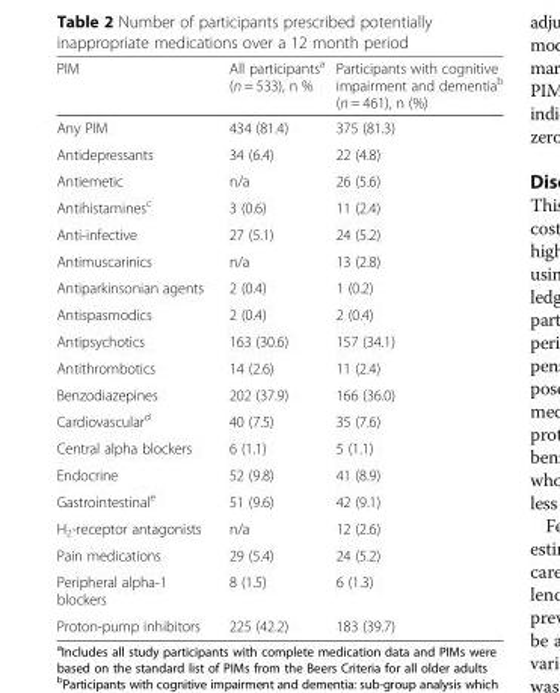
<table><thead><tr><td>PIM</td><td>All participants<sup>a</sup> (n = 533), n %</td><td>Participants with cognitive impairment and dementia<sup>b</sup> (n = 461), n (%)</td></tr></thead><tbody><tr><td>Any PIM</td><td>434 (81.4)</td><td>375 (81.3)</td></tr><tr><td>Antidepressants</td><td>34 (6.4)</td><td>22 (4.8)</td></tr><tr><td>Antiemetic</td><td>n/a</td><td>26 (5.6)</td></tr><tr><td>Antihistamines<sup>c</sup></td><td>3 (0.6)</td><td>11 (2.4)</td></tr><tr><td>Anti-infective</td><td>27 (5.1)</td><td>24 (5.2)</td></tr><tr><td>Antimuscarinics</td><td>n/a</td><td>13 (2.8)</td></tr><tr><td>Antiparkinsonian agents</td><td>2 (0.4)</td><td>1 (0.2)</td></tr><tr><td>Antispasmodics</td><td>2 (0.4)</td><td>2 (0.4)</td></tr><tr><td>Antipsychotics</td><td>163 (30.6)</td><td>157 (34.1)</td></tr><tr><td>Antithrombotics</td><td>14 (2.6)</td><td>11 (2.4)</td></tr><tr><td>Benzodiazepines</td><td>202 (37.9)</td><td>166 (36.0)</td></tr><tr><td>Cardiovascular<sup>d</sup></td><td>40 (7.5)</td><td>35 (7.6)</td></tr><tr><td>Central alpha blockers</td><td>6 (1.1)</td><td>5 (1.1)</td></tr><tr><td>Endocrine</td><td>52 (9.8)</td><td>41 (8.9)</td></tr><tr><td>Gastrointestinal<sup>e</sup></td><td>51 (9.6)</td><td>42 (9.1)</td></tr><tr><td>H<sub>2</sub>-receptor antagonists</td><td>n/a</td><td>12 (2.6)</td></tr><tr><td>Pain medications</td><td>29 (5.4)</td><td>24 (5.2)</td></tr><tr><td>Peripheral alpha-1 blockers</td><td>8 (1.5)</td><td>6 (1.3)</td></tr><tr><td>Proton-pump inhibitors</td><td>225 (42.2)</td><td>183 (39.7)</td></tr></tbody></table>